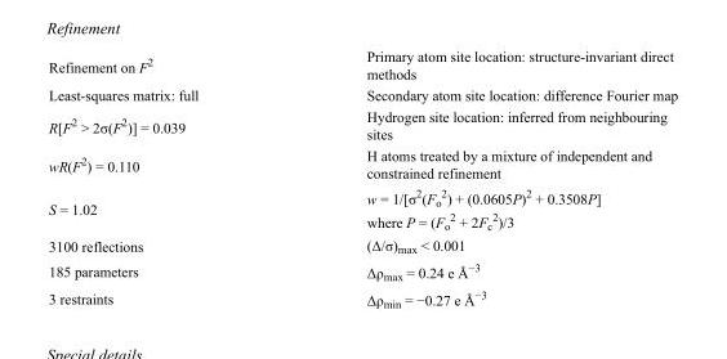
<table><tbody><tr><td>Refinement on F<sup>2</sup></td><td>Primary atom site location: structure-invariant direct methods</td></tr><tr><td>Least-squares matrix: full</td><td>Secondary atom site location: difference Fourier map</td></tr><tr><td>R[F<sup>2</sup> &gt; 2σ(F<sup>2</sup>)] = 0.039</td><td>Hydrogen site location: inferred from neighbouring sites</td></tr><tr><td>wR(F<sup>2</sup>) = 0.110</td><td>H atoms treated by a mixture of independent and constrained refinement</td></tr><tr><td>S = 1.02</td><td>w = 1/[σ<sup>2</sup>(F<sub>o</sub> <sup>2</sup>) + (0.0605P)<sup>2</sup> + 0.3508P] where P = (F<sub>o</sub> <sup>2</sup> + 2F<sub>c</sub> <sup>2</sup>)/3</td></tr><tr><td>3100 reflections</td><td>(Δ/σ)<sub>max</sub> &lt; 0.001</td></tr><tr><td>185 parameters</td><td>Δρ<sub>max</sub> = 0.24 e Å<sup>−3</sup></td></tr><tr><td>3 restraints</td><td>Δρ<sub>min</sub> = −0.27 e Å<sup>−3</sup></td></tr></tbody></table>